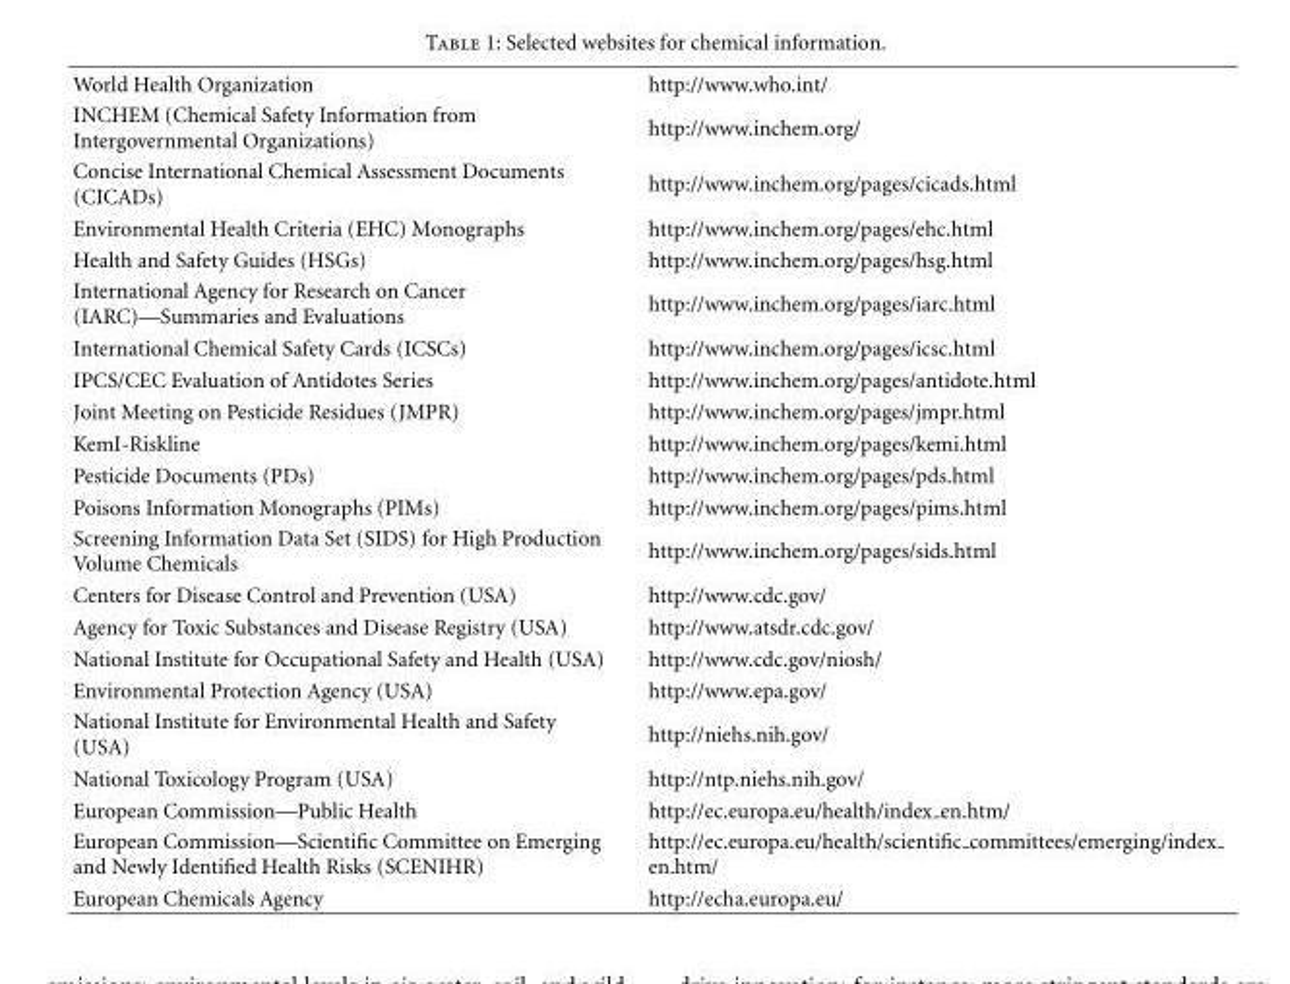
<table><tbody><tr><td>World Health Organization</td><td>http://www.who.int/</td></tr><tr><td>INCHEM (Chemical Safety Information from Intergovernmental Organizations)</td><td>http://www.inchem.org/</td></tr><tr><td>Concise International Chemical Assessment Documents (CICADs)</td><td>http://www.inchem.org/pages/cicads.html</td></tr><tr><td>Environmental Health Criteria (EHC) Monographs</td><td>http://www.inchem.org/pages/ehc.html</td></tr><tr><td>Health and Safety Guides (HSGs)</td><td>http://www.inchem.org/pages/hsg.html</td></tr><tr><td>International Agency for Research on Cancer (IARC)—Summaries and Evaluations</td><td>http://www.inchem.org/pages/iarc.html</td></tr><tr><td>International Chemical Safety Cards (ICSCs)</td><td>http://www.inchem.org/pages/icsc.html</td></tr><tr><td>IPCS/CEC Evaluation of Antidotes Series</td><td>http://www.inchem.org/pages/antidote.html</td></tr><tr><td>Joint Meeting on Pesticide Residues (JMPR)</td><td>http://www.inchem.org/pages/jmpr.html</td></tr><tr><td>KemI-Riskline</td><td>http://www.inchem.org/pages/kemi.html</td></tr><tr><td>Pesticide Documents (PDs)</td><td>http://www.inchem.org/pages/pds.html</td></tr><tr><td>Poisons Information Monographs (PIMs)</td><td>http://www.inchem.org/pages/pims.html</td></tr><tr><td>Screening Information Data Set (SIDS) for High Production Volume Chemicals</td><td>http://www.inchem.org/pages/sids.html</td></tr><tr><td>Centers for Disease Control and Prevention (USA)</td><td>http://www.cdc.gov/</td></tr><tr><td>Agency for Toxic Substances and Disease Registry (USA)</td><td>http://www.atsdr.cdc.gov/</td></tr><tr><td>National Institute for Occupational Safety and Health (USA)</td><td>http://www.cdc.gov/niosh/</td></tr><tr><td>Environmental Protection Agency (USA)</td><td>http://www.epa.gov/</td></tr><tr><td>National Institute for Environmental Health and Safety (USA)</td><td>http://niehs.nih.gov/</td></tr><tr><td>National Toxicology Program (USA)</td><td>http://ntp.niehs.nih.gov/</td></tr><tr><td>European Commission—Public Health</td><td>http://ec.europa.eu/health/index en.htm/</td></tr><tr><td>European Commission—Scientific Committee on Emerging and Newly Identified Health Risks (SCENIHR)</td><td>http://ec.europa.eu/health/scientific <sub>committees/emerging/index</sub> en.htm/</td></tr><tr><td>European Chemicals Agency</td><td>http://echa.europa.eu/</td></tr></tbody></table>